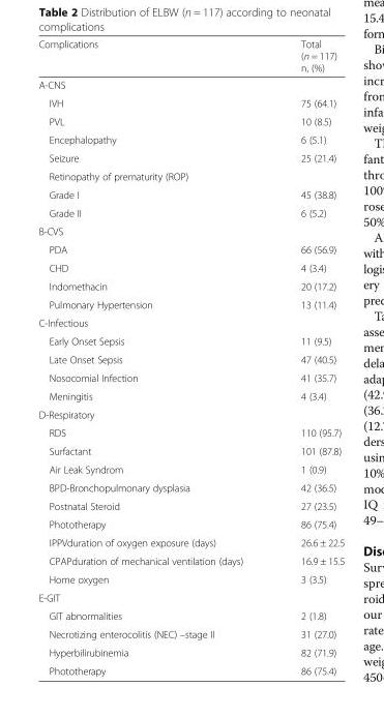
<table><thead><tr><td>Complications</td><td>Total (n = 117) n, (%)</td></tr></thead><tbody><tr><td colspan="2">A-CNS</td></tr><tr><td>IVH</td><td>75 (64.1)</td></tr><tr><td>PVL</td><td>10 (8.5)</td></tr><tr><td>Encephalopathy</td><td>6 (5.1)</td></tr><tr><td>Seizure</td><td>25 (21.4)</td></tr><tr><td colspan="2">Retinopathy of prematurity (ROP)</td></tr><tr><td>Grade I</td><td>45 (38.8)</td></tr><tr><td>Grade II</td><td>6 (5.2)</td></tr><tr><td colspan="2">B-CVS</td></tr><tr><td>PDA</td><td>66 (56.9)</td></tr><tr><td>CHD</td><td>4 (3.4)</td></tr><tr><td>Indomethacin</td><td>20 (17.2)</td></tr><tr><td>Pulmonary Hypertension</td><td>13 (11.4)</td></tr><tr><td colspan="2">C-Infectious</td></tr><tr><td>Early Onset Sepsis</td><td>11 (9.5)</td></tr><tr><td>Late Onset Sepsis</td><td>47 (40.5)</td></tr><tr><td>Nosocomial Infection</td><td>41 (35.7)</td></tr><tr><td>Meningitis</td><td>4 (3.4)</td></tr><tr><td colspan="2">D-Respiratory</td></tr><tr><td>RDS</td><td>110 (95.7)</td></tr><tr><td>Surfactant</td><td>101 (87.8)</td></tr><tr><td>Air Leak Syndrom</td><td>1 (0.9)</td></tr><tr><td>BPD-Bronchopulmonary dysplasia</td><td>42 (36.5)</td></tr><tr><td>Postnatal Steroid</td><td>27 (23.5)</td></tr><tr><td>Phototherapy</td><td>86 (75.4)</td></tr><tr><td>IPPVduration of oxygen exposure (days)</td><td>26.6 ± 22.5</td></tr><tr><td>CPAPduration of mechanical ventilation (days)</td><td>16.9 ± 15.5</td></tr><tr><td>Home oxygen</td><td>3 (3.5)</td></tr><tr><td colspan="2">E-GIT</td></tr><tr><td>GIT abnormalities</td><td>2 (1.8)</td></tr><tr><td>Necrotizing enterocolitis (NEC) –stage II</td><td>31 (27.0)</td></tr><tr><td>Hyperbilirubinemia</td><td>82 (71.9)</td></tr><tr><td>Phototherapy</td><td>86 (75.4)</td></tr></tbody></table>